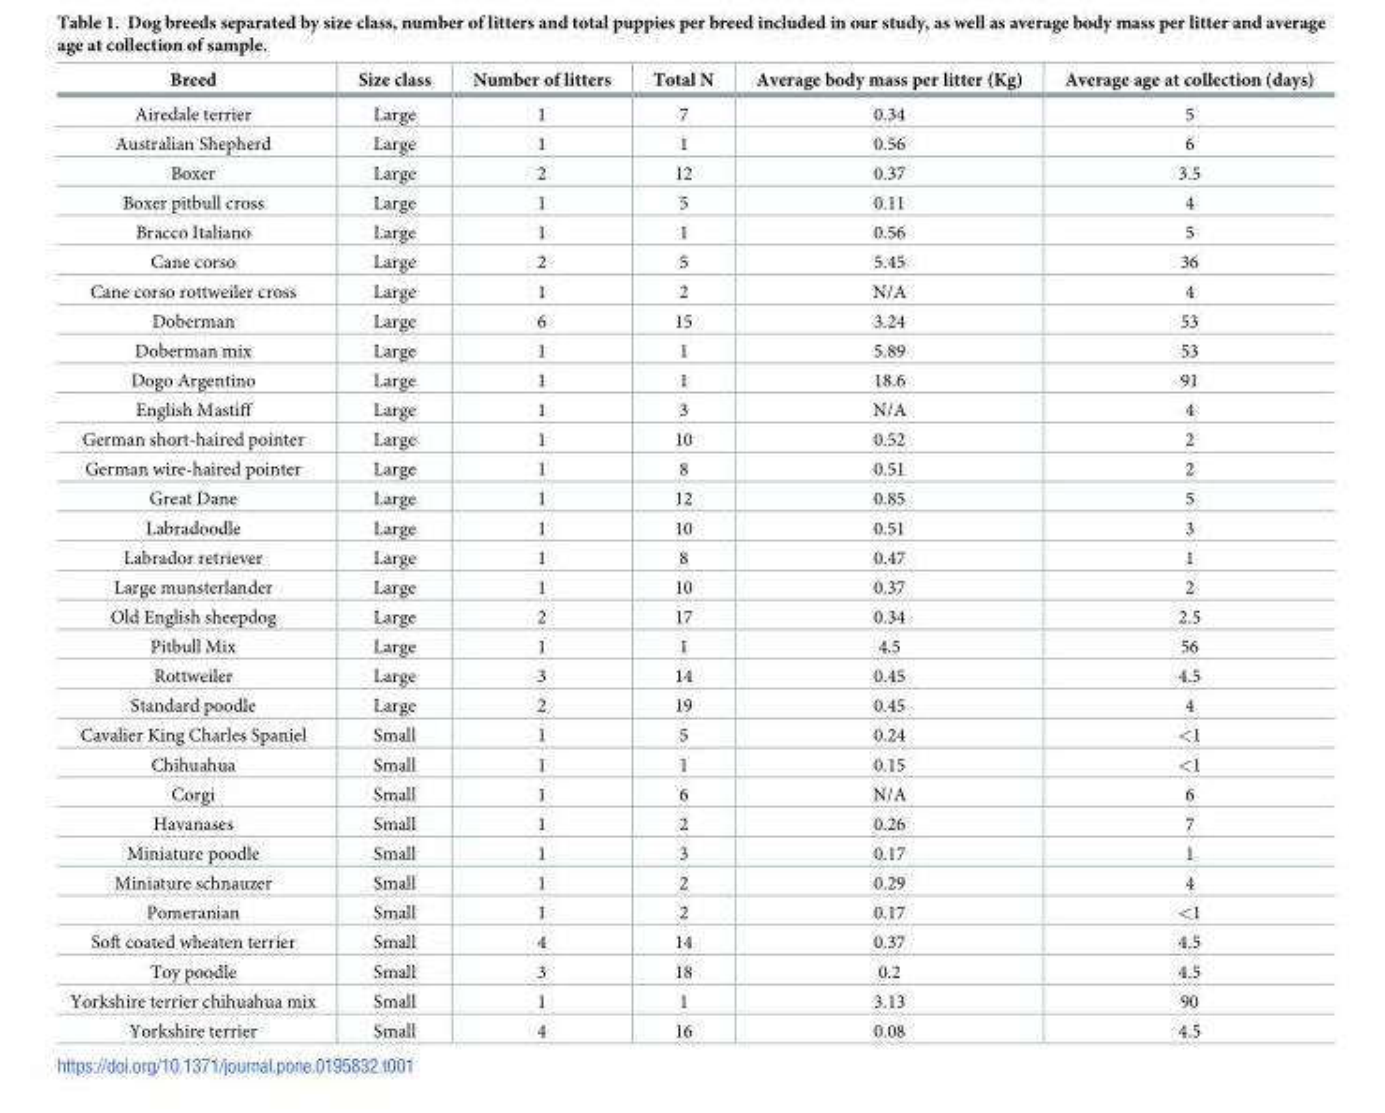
<table><thead><tr><td>Breed</td><td>Size class</td><td>Number of litters</td><td>Total N</td><td>Average body mass per litter (Kg)</td><td>Average age at collection (days)</td></tr></thead><tbody><tr><td>Airedale terrier</td><td>Large</td><td>1</td><td>7</td><td>0.34</td><td>5</td></tr><tr><td>Australian Shepherd</td><td>Large</td><td>1</td><td>1</td><td>0.56</td><td>6</td></tr><tr><td>Boxer</td><td>Large</td><td>2</td><td>12</td><td>0.37</td><td>3.5</td></tr><tr><td>Boxer pitbull cross</td><td>Large</td><td>1</td><td>5</td><td>0.11</td><td>4</td></tr><tr><td>Bracco Italiano</td><td>Large</td><td>1</td><td>1</td><td>0.56</td><td>5</td></tr><tr><td>Cane corso</td><td>Large</td><td>2</td><td>5</td><td>5.45</td><td>36</td></tr><tr><td>Cane corso rottweiler cross</td><td>Large</td><td>1</td><td>2</td><td>N/A</td><td>4</td></tr><tr><td>Doberman</td><td>Large</td><td>6</td><td>15</td><td>3.24</td><td>53</td></tr><tr><td>Doberman mix</td><td>Large</td><td>1</td><td>1</td><td>5.89</td><td>53</td></tr><tr><td>Dogo Argentino</td><td>Large</td><td>1</td><td>1</td><td>18.6</td><td>91</td></tr><tr><td>English Mastiff</td><td>Large</td><td>1</td><td>3</td><td>N/A</td><td>4</td></tr><tr><td>German short-haired pointer</td><td>Large</td><td>1</td><td>10</td><td>0.52</td><td>2</td></tr><tr><td>German wire-haired pointer</td><td>Large</td><td>1</td><td>8</td><td>0.51</td><td>2</td></tr><tr><td>Great Dane</td><td>Large</td><td>1</td><td>12</td><td>0.85</td><td>5</td></tr><tr><td>Labradoodle</td><td>Large</td><td>1</td><td>10</td><td>0.51</td><td>3</td></tr><tr><td>Labrador retriever</td><td>Large</td><td>1</td><td>8</td><td>0.47</td><td>1</td></tr><tr><td>Large munsterlander</td><td>Large</td><td>1</td><td>10</td><td>0.37</td><td>2</td></tr><tr><td>Old English sheepdog</td><td>Large</td><td>2</td><td>17</td><td>0.34</td><td>2.5</td></tr><tr><td>Pitbull Mix</td><td>Large</td><td>1</td><td>1</td><td>4.5</td><td>56</td></tr><tr><td>Rottweiler</td><td>Large</td><td>3</td><td>14</td><td>0.45</td><td>4.5</td></tr><tr><td>Standard poodle</td><td>Large</td><td>2</td><td>19</td><td>0.45</td><td>4</td></tr><tr><td>Cavalier King Charles Spaniel</td><td>Small</td><td>1</td><td>5</td><td>0.24</td><td>&lt;1</td></tr><tr><td>Chihuahua</td><td>Small</td><td>1</td><td>1</td><td>0.15</td><td>&lt;1</td></tr><tr><td>Corgi</td><td>Small</td><td>1</td><td>6</td><td>N/A</td><td>6</td></tr><tr><td>Havanases</td><td>Small</td><td>1</td><td>2</td><td>0.26</td><td>7</td></tr><tr><td>Miniature poodle</td><td>Small</td><td>1</td><td>3</td><td>0.17</td><td>1</td></tr><tr><td>Miniature schnauzer</td><td>Small</td><td>1</td><td>2</td><td>0.29</td><td>4</td></tr><tr><td>Pomeranian</td><td>Small</td><td>1</td><td>2</td><td>0.17</td><td>&lt;1</td></tr><tr><td>Soft coated wheaten terrier</td><td>Small</td><td>4</td><td>14</td><td>0.37</td><td>4.5</td></tr><tr><td>Toy poodle</td><td>Small</td><td>3</td><td>18</td><td>0.2</td><td>4.5</td></tr><tr><td>Yorkshire terrier chihuahua mix</td><td>Small</td><td>1</td><td>1</td><td>3.13</td><td>90</td></tr><tr><td>Yorkshire terrier</td><td>Small</td><td>4</td><td>16</td><td>0.08</td><td>4.5</td></tr></tbody></table>